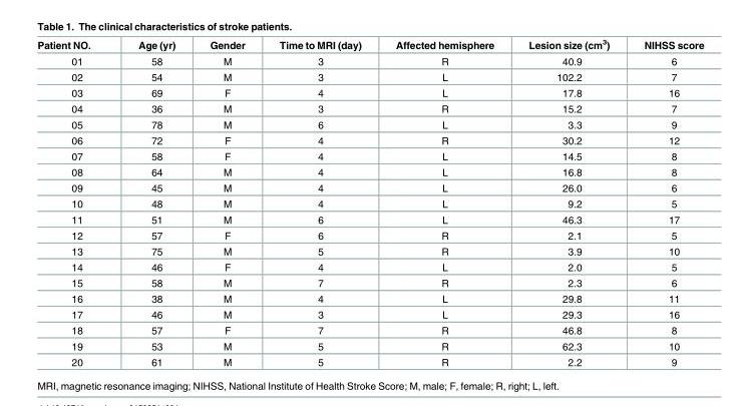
<table><thead><tr><td>Patient NO.</td><td>Age (yr)</td><td>Gender</td><td>Time to MRI (day)</td><td>Affected hemisphere</td><td>Lesion size (cm<sup>3</sup>)</td><td>NIHSS score</td></tr></thead><tbody><tr><td>01</td><td>58</td><td>M</td><td>3</td><td>R</td><td>40.9</td><td>6</td></tr><tr><td>02</td><td>54</td><td>M</td><td>3</td><td>L</td><td>102.2</td><td>7</td></tr><tr><td>03</td><td>69</td><td>F</td><td>4</td><td>L</td><td>17.8</td><td>16</td></tr><tr><td>04</td><td>36</td><td>M</td><td>3</td><td>R</td><td>15.2</td><td>7</td></tr><tr><td>05</td><td>78</td><td>M</td><td>6</td><td>L</td><td>3.3</td><td>9</td></tr><tr><td>06</td><td>72</td><td>F</td><td>4</td><td>R</td><td>30.2</td><td>12</td></tr><tr><td>07</td><td>58</td><td>F</td><td>4</td><td>L</td><td>14.5</td><td>8</td></tr><tr><td>08</td><td>64</td><td>M</td><td>4</td><td>L</td><td>16.8</td><td>8</td></tr><tr><td>09</td><td>45</td><td>M</td><td>4</td><td>L</td><td>26.0</td><td>6</td></tr><tr><td>10</td><td>48</td><td>M</td><td>4</td><td>L</td><td>9.2</td><td>5</td></tr><tr><td>11</td><td>51</td><td>M</td><td>6</td><td>L</td><td>46.3</td><td>17</td></tr><tr><td>12</td><td>57</td><td>F</td><td>6</td><td>R</td><td>2.1</td><td>5</td></tr><tr><td>13</td><td>75</td><td>M</td><td>5</td><td>R</td><td>3.9</td><td>10</td></tr><tr><td>14</td><td>46</td><td>F</td><td>4</td><td>L</td><td>2.0</td><td>5</td></tr><tr><td>15</td><td>58</td><td>M</td><td>7</td><td>R</td><td>2.3</td><td>6</td></tr><tr><td>16</td><td>38</td><td>M</td><td>4</td><td>L</td><td>29.8</td><td>11</td></tr><tr><td>17</td><td>46</td><td>M</td><td>3</td><td>L</td><td>29.3</td><td>16</td></tr><tr><td>18</td><td>57</td><td>F</td><td>7</td><td>R</td><td>46.8</td><td>8</td></tr><tr><td>19</td><td>53</td><td>M</td><td>5</td><td>R</td><td>62.3</td><td>10</td></tr><tr><td>20</td><td>61</td><td>M</td><td>5</td><td>R</td><td>2.2</td><td>9</td></tr></tbody></table>